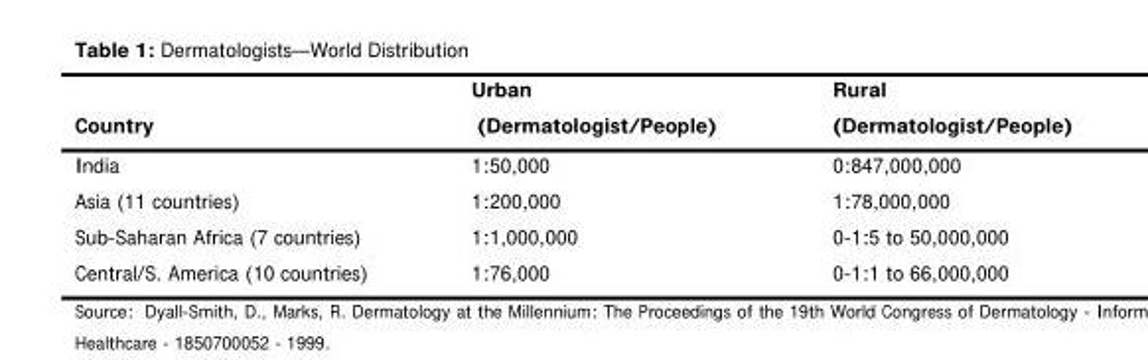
<table><thead><tr><td>Country</td><td>Urban (Dermatologist/People)</td><td>Rural (Dermatologist/People)</td></tr></thead><tbody><tr><td>India</td><td>1:50,000</td><td>0:847,000,000</td></tr><tr><td>Asia (11 countries)</td><td>1:200,000</td><td>1:78,000,000</td></tr><tr><td>Sub-Saharan Africa (7 countries)</td><td>1:1,000,000</td><td>0-1:5 to 50,000,000</td></tr><tr><td>Central/S. America (10 countries)</td><td>1:76,000</td><td>0-1:1 to 66,000,000</td></tr></tbody></table>